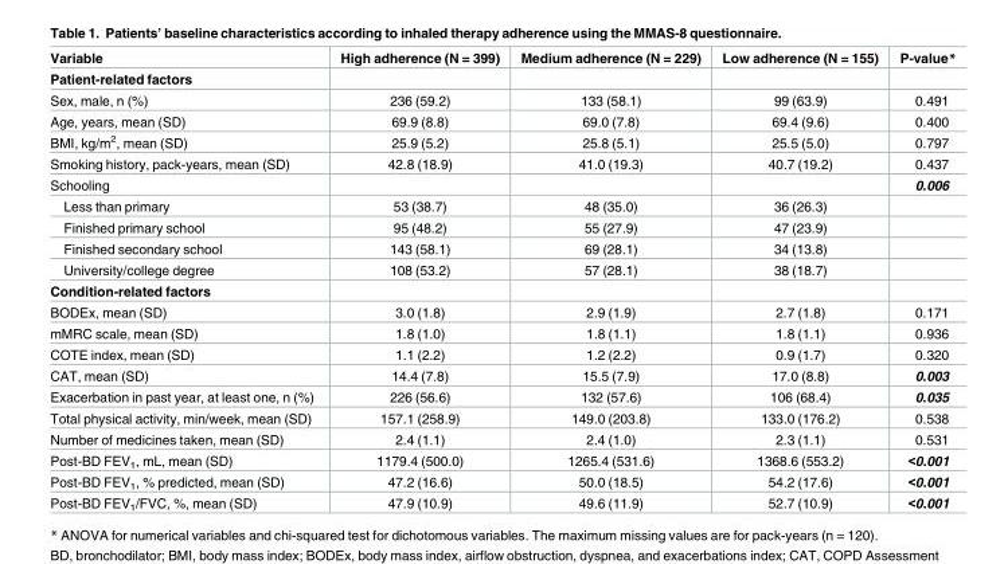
<table><thead><tr><td>Variable</td><td>High adherence (N = 399)</td><td>Medium adherence (N = 229)</td><td>Low adherence (N = 155)</td><td>P-value*</td></tr></thead><tbody><tr><td colspan="5">Patient-related factors</td></tr><tr><td>Sex, male, n (%)</td><td>236 (59.2)</td><td>133 (58.1)</td><td>99 (63.9)</td><td>0.491</td></tr><tr><td>Age, years, mean (SD)</td><td>69.9 (8.8)</td><td>69.0 (7.8)</td><td>69.4 (9.6)</td><td>0.400</td></tr><tr><td>BMI, kg/m<sup>2</sup>, mean (SD)</td><td>25.9 (5.2)</td><td>25.8 (5.1)</td><td>25.5 (5.0)</td><td>0.797</td></tr><tr><td>Smoking history, pack-years, mean (SD)</td><td>42.8 (18.9)</td><td>41.0 (19.3)</td><td>40.7 (19.2)</td><td>0.437</td></tr><tr><td>Schooling</td><td></td><td></td><td></td><td>0.006</td></tr><tr><td>Less than primary</td><td>53 (38.7)</td><td>48 (35.0)</td><td>36 (26.3)</td><td></td></tr><tr><td>Finished primary school</td><td>95 (48.2)</td><td>55 (27.9)</td><td>47 (23.9)</td><td></td></tr><tr><td>Finished secondary school</td><td>143 (58.1)</td><td>69 (28.1)</td><td>34 (13.8)</td><td></td></tr><tr><td>University/college degree</td><td>108 (53.2)</td><td>57 (28.1)</td><td>38 (18.7)</td><td></td></tr><tr><td colspan="5">Condition-related factors</td></tr><tr><td>BODEx, mean (SD)</td><td>3.0 (1.8)</td><td>2.9 (1.9)</td><td>2.7 (1.8)</td><td>0.171</td></tr><tr><td>mMRC scale, mean (SD)</td><td>1.8 (1.0)</td><td>1.8 (1.1)</td><td>1.8 (1.1)</td><td>0.936</td></tr><tr><td>COTE index, mean (SD)</td><td>1.1 (2.2)</td><td>1.2 (2.2)</td><td>0.9 (1.7)</td><td>0.320</td></tr><tr><td>CAT, mean (SD)</td><td>14.4 (7.8)</td><td>15.5 (7.9)</td><td>17.0 (8.8)</td><td>0.003</td></tr><tr><td>Exacerbation in past year, at least one, n (%)</td><td>226 (56.6)</td><td>132 (57.6)</td><td>106 (68.4)</td><td>0.035</td></tr><tr><td>Total physical activity, min/week, mean (SD)</td><td>157.1 (258.9)</td><td>149.0 (203.8)</td><td>133.0 (176.2)</td><td>0.538</td></tr><tr><td>Number of medicines taken, mean (SD)</td><td>2.4 (1.1)</td><td>2.4 (1.0)</td><td>2.3 (1.1)</td><td>0.531</td></tr><tr><td>Post-BD FEV<sub>1</sub>, mL, mean (SD)</td><td>1179.4 (500.0)</td><td>1265.4 (531.6)</td><td>1368.6 (553.2)</td><td>&lt;0.001</td></tr><tr><td>Post-BD FEV<sub>1</sub>, % predicted, mean (SD)</td><td>47.2 (16.6)</td><td>50.0 (18.5)</td><td>54.2 (17.6)</td><td>&lt;0.001</td></tr><tr><td>Post-BD FEV<sub>1</sub>/FVC, %, mean (SD)</td><td>47.9 (10.9)</td><td>49.6 (11.9)</td><td>52.7 (10.9)</td><td>&lt;0.001</td></tr></tbody></table>